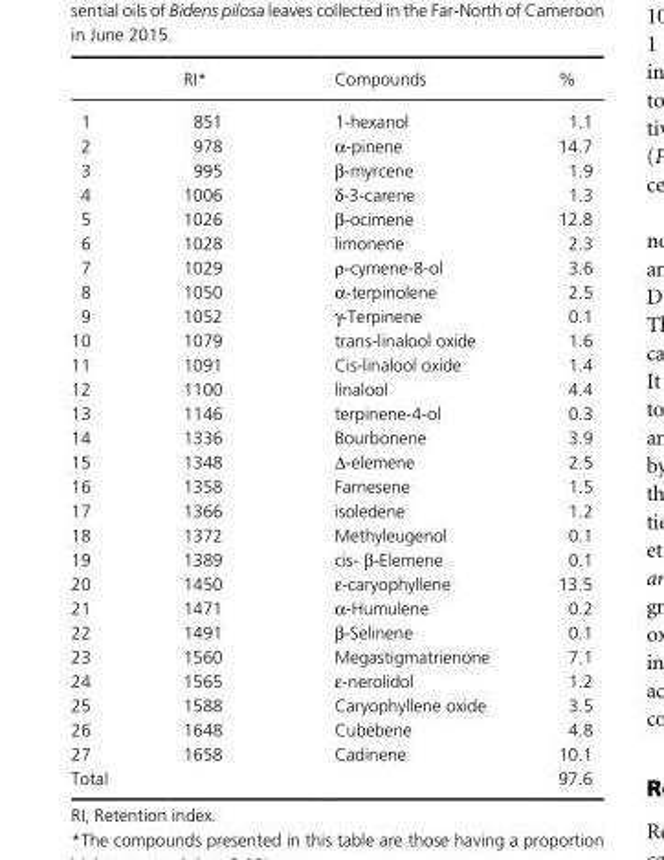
<table><thead><tr><td></td><td>RI*</td><td>Compounds</td><td>%</td></tr></thead><tbody><tr><td>1</td><td>851</td><td>1- hexanol</td><td>1.1</td></tr><tr><td>2</td><td>978</td><td>α- pinene</td><td>14.7</td></tr><tr><td>3</td><td>995</td><td>β- myrcene</td><td>1.9</td></tr><tr><td>4</td><td>1006</td><td>δ- 3- carene</td><td>1.3</td></tr><tr><td>5</td><td>1026</td><td>β- ocimene</td><td>12.8</td></tr><tr><td>6</td><td>1028</td><td>limonene</td><td>2.3</td></tr><tr><td>7</td><td>1029</td><td>ρ- cymene- 8- ol</td><td>3.6</td></tr><tr><td>8</td><td>1050</td><td>α- terpinolene</td><td>2.5</td></tr><tr><td>9</td><td>1052</td><td>γ- Terpinene</td><td>0.1</td></tr><tr><td>10</td><td>1079</td><td>trans- linalool oxide</td><td>1.6</td></tr><tr><td>11</td><td>1091</td><td>Cis- linalool oxide</td><td>1.4</td></tr><tr><td>12</td><td>1100</td><td>linalool</td><td>4.4</td></tr><tr><td>13</td><td>1146</td><td>terpinene- 4- ol</td><td>0.3</td></tr><tr><td>14</td><td>1336</td><td>Bourbonene</td><td>3.9</td></tr><tr><td>15</td><td>1348</td><td>Δ- elemene</td><td>2.5</td></tr><tr><td>16</td><td>1358</td><td>Farnesene</td><td>1.5</td></tr><tr><td>17</td><td>1366</td><td>isoledene</td><td>1.2</td></tr><tr><td>18</td><td>1372</td><td>Methyleugenol</td><td>0.1</td></tr><tr><td>19</td><td>1389</td><td>cis- β- Elemene</td><td>0.1</td></tr><tr><td>20</td><td>1450</td><td>ε- caryophyllene</td><td>13.5</td></tr><tr><td>21</td><td>1471</td><td>α- Humulene</td><td>0.2</td></tr><tr><td>22</td><td>1491</td><td>β- Selinene</td><td>0.1</td></tr><tr><td>23</td><td>1560</td><td>Megastigmatrienone</td><td>7.1</td></tr><tr><td>24</td><td>1565</td><td>ε- nerolidol</td><td>1.2</td></tr><tr><td>25</td><td>1588</td><td>Caryophyllene oxide</td><td>3.5</td></tr><tr><td>26</td><td>1648</td><td>Cubebene</td><td>4.8</td></tr><tr><td>27</td><td>1658</td><td>Cadinene</td><td>10.1</td></tr><tr><td colspan="3">Total</td><td>97.6</td></tr></tbody></table>